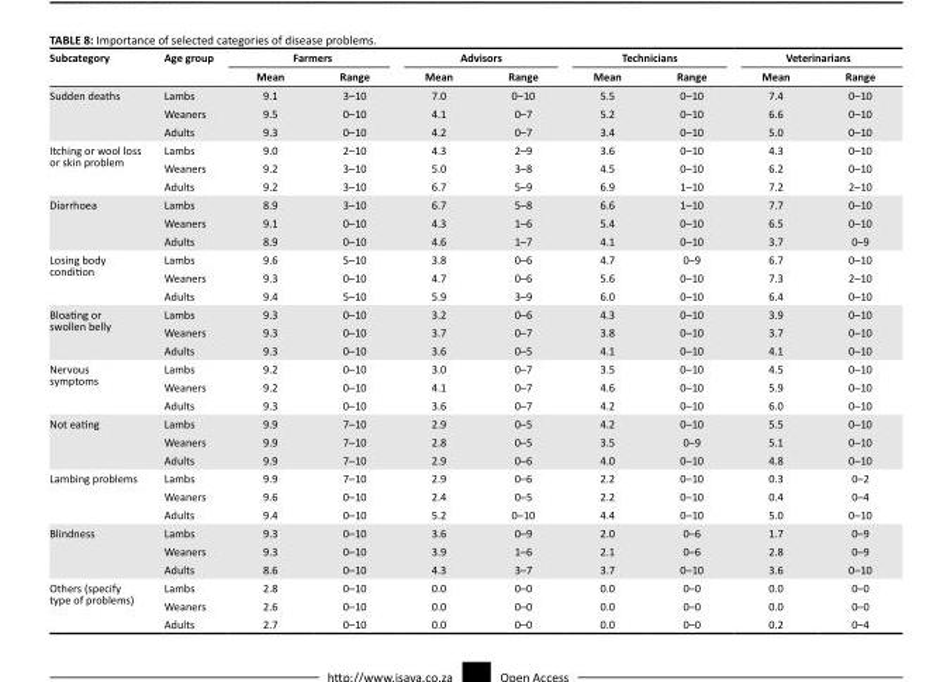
<table><thead><tr><td rowspan="2">Subcategory</td><td rowspan="2">Age group</td><td colspan="2">Farmers</td><td colspan="2">Advisors</td><td colspan="2">Technicians</td><td colspan="2">Veterinarians</td></tr><tr><td>Mean</td><td>Range</td><td>Mean</td><td>Range</td><td>Mean</td><td>Range</td><td>Mean</td><td>Range</td></tr></thead><tbody><tr><td rowspan="3">Sudden deaths</td><td>Lambs</td><td>9.1</td><td>3–10</td><td>7.0</td><td>0–10</td><td>5.5</td><td>0–10</td><td>7.4</td><td>0–10</td></tr><tr><td>Weaners</td><td>9.5</td><td>0–10</td><td>4.1</td><td>0–7</td><td>5.2</td><td>0–10</td><td>6.6</td><td>0–10</td></tr><tr><td>Adults</td><td>9.3</td><td>0–10</td><td>4.2</td><td>0–7</td><td>3.4</td><td>0–10</td><td>5.0</td><td>0–10</td></tr><tr><td rowspan="3">Itching or wool loss or skin problem</td><td>Lambs</td><td>9.0</td><td>2–10</td><td>4.3</td><td>2–9</td><td>3.6</td><td>0–10</td><td>4.3</td><td>0–10</td></tr><tr><td>Weaners</td><td>9.2</td><td>3–10</td><td>5.0</td><td>3–8</td><td>4.5</td><td>0–10</td><td>6.2</td><td>0–10</td></tr><tr><td>Adults</td><td>9.2</td><td>3–10</td><td>6.7</td><td>5–9</td><td>6.9</td><td>1–10</td><td>7.2</td><td>2–10</td></tr><tr><td rowspan="3">Diarrhoea</td><td>Lambs</td><td>8.9</td><td>3–10</td><td>6.7</td><td>5–8</td><td>6.6</td><td>1–10</td><td>7.7</td><td>0–10</td></tr><tr><td>Weaners</td><td>9.1</td><td>0–10</td><td>4.3</td><td>1–6</td><td>5.4</td><td>0–10</td><td>6.5</td><td>0–10</td></tr><tr><td>Adults</td><td>8.9</td><td>0–10</td><td>4.6</td><td>1–7</td><td>4.1</td><td>0–10</td><td>3.7</td><td>0–9</td></tr><tr><td rowspan="3">Losing body condition</td><td>Lambs</td><td>9.6</td><td>5–10</td><td>3.8</td><td>0–6</td><td>4.7</td><td>0–9</td><td>6.7</td><td>0–10</td></tr><tr><td>Weaners</td><td>9.3</td><td>0–10</td><td>4.7</td><td>0–6</td><td>5.6</td><td>0–10</td><td>7.3</td><td>2–10</td></tr><tr><td>Adults</td><td>9.4</td><td>5–10</td><td>5.9</td><td>3–9</td><td>6.0</td><td>0–10</td><td>6.4</td><td>0–10</td></tr><tr><td rowspan="3">Bloating or swollen belly</td><td>Lambs</td><td>9.3</td><td>0–10</td><td>3.2</td><td>0–6</td><td>4.3</td><td>0–10</td><td>3.9</td><td>0–10</td></tr><tr><td>Weaners</td><td>9.3</td><td>0–10</td><td>3.7</td><td>0–7</td><td>3.8</td><td>0–10</td><td>3.7</td><td>0–10</td></tr><tr><td>Adults</td><td>9.3</td><td>0–10</td><td>3.6</td><td>0–5</td><td>4.1</td><td>0–10</td><td>4.1</td><td>0–10</td></tr><tr><td rowspan="3">Nervous symptoms</td><td>Lambs</td><td>9.2</td><td>0–10</td><td>3.0</td><td>0–7</td><td>3.5</td><td>0–10</td><td>4.5</td><td>0–10</td></tr><tr><td>Weaners</td><td>9.2</td><td>0–10</td><td>4.1</td><td>0–7</td><td>4.6</td><td>0–10</td><td>5.9</td><td>0–10</td></tr><tr><td>Adults</td><td>9.3</td><td>0–10</td><td>3.6</td><td>0–7</td><td>4.2</td><td>0–10</td><td>6.0</td><td>0–10</td></tr><tr><td rowspan="3">Not eating</td><td>Lambs</td><td>9.9</td><td>7–10</td><td>2.9</td><td>0–5</td><td>4.2</td><td>0–10</td><td>5.5</td><td>0–10</td></tr><tr><td>Weaners</td><td>9.9</td><td>7–10</td><td>2.8</td><td>0–5</td><td>3.5</td><td>0–9</td><td>5.1</td><td>0–10</td></tr><tr><td>Adults</td><td>9.9</td><td>7–10</td><td>2.9</td><td>0–6</td><td>4.0</td><td>0–10</td><td>4.8</td><td>0–10</td></tr><tr><td rowspan="3">Lambing problems</td><td>Lambs</td><td>9.9</td><td>7–10</td><td>2.9</td><td>0–6</td><td>2.2</td><td>0–10</td><td>0.3</td><td>0–2</td></tr><tr><td>Weaners</td><td>9.6</td><td>0–10</td><td>2.4</td><td>0–5</td><td>2.2</td><td>0–10</td><td>0.4</td><td>0–4</td></tr><tr><td>Adults</td><td>9.4</td><td>0–10</td><td>5.2</td><td>0–10</td><td>4.4</td><td>0–10</td><td>5.0</td><td>0–10</td></tr><tr><td rowspan="3">Blindness</td><td>Lambs</td><td>9.3</td><td>0–10</td><td>3.6</td><td>0–9</td><td>2.0</td><td>0–6</td><td>1.7</td><td>0–9</td></tr><tr><td>Weaners</td><td>9.3</td><td>0–10</td><td>3.9</td><td>1–6</td><td>2.1</td><td>0–6</td><td>2.8</td><td>0–9</td></tr><tr><td>Adults</td><td>8.6</td><td>0–10</td><td>4.3</td><td>3–7</td><td>3.7</td><td>0–10</td><td>3.6</td><td>0–10</td></tr><tr><td rowspan="3">Others (specify type of problems)</td><td>Lambs</td><td>2.8</td><td>0–10</td><td>0.0</td><td>0–0</td><td>0.0</td><td>0–0</td><td>0.0</td><td>0–0</td></tr><tr><td>Weaners</td><td>2.6</td><td>0–10</td><td>0.0</td><td>0–0</td><td>0.0</td><td>0–0</td><td>0.0</td><td>0–0</td></tr><tr><td>Adults</td><td>2.7</td><td>0–10</td><td>0.0</td><td>0–0</td><td>0.0</td><td>0–0</td><td>0.2</td><td>0–4</td></tr></tbody></table>